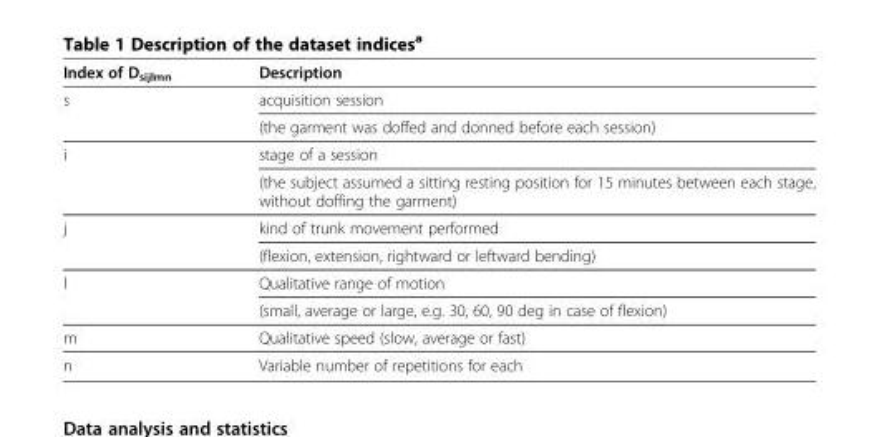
<table><thead><tr><td>Index of D<sub>sijlmn</sub></td><td>Description</td></tr></thead><tbody><tr><td rowspan="2">s</td><td>acquisition session</td></tr><tr><td>(the garment was doffed and donned before each session)</td></tr><tr><td rowspan="2">i</td><td>stage of a session</td></tr><tr><td>(the subject assumed a sitting resting position for 15 minutes between each stage, without doffing the garment)</td></tr><tr><td rowspan="2">j</td><td>kind of trunk movement performed</td></tr><tr><td>(flexion, extension, rightward or leftward bending)</td></tr><tr><td rowspan="2">l</td><td>Qualitative range of motion</td></tr><tr><td>(small, average or large, e.g. 30, 60, 90 deg in case of flexion)</td></tr><tr><td>m</td><td>Qualitative speed (slow, average or fast)</td></tr><tr><td>n</td><td>Variable number of repetitions for each</td></tr></tbody></table>